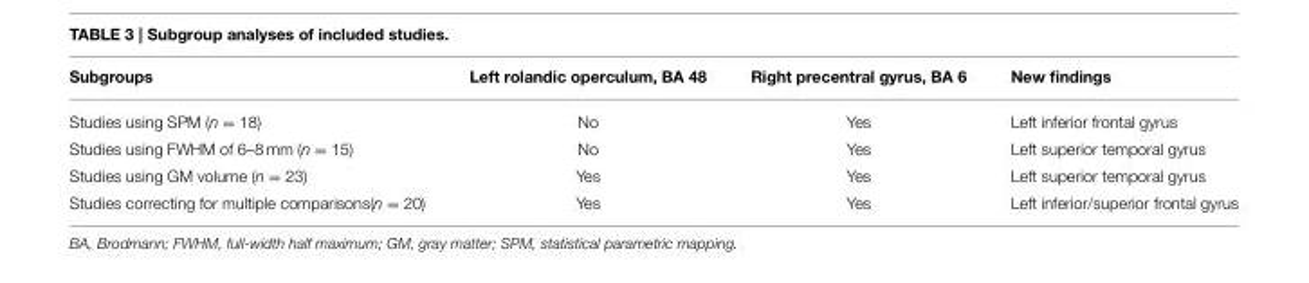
<table><thead><tr><td>Subgroups</td><td>Left rolandic operculum, BA 48</td><td>Right precentral gyrus, BA 6</td><td>New findings</td></tr></thead><tbody><tr><td>Studies using SPM (n = 18)</td><td>No</td><td>Yes</td><td>Left inferior frontal gyrus</td></tr><tr><td>Studies using FWHM of 6–8 mm (n = 15)</td><td>No</td><td>Yes</td><td>Left superior temporal gyrus</td></tr><tr><td>Studies using GM volume (n = 23)</td><td>Yes</td><td>Yes</td><td>Left superior temporal gyrus</td></tr><tr><td>Studies correcting for multiple comparisons(n = 20)</td><td>Yes</td><td>Yes</td><td>Left inferior/superior frontal gyrus</td></tr></tbody></table>